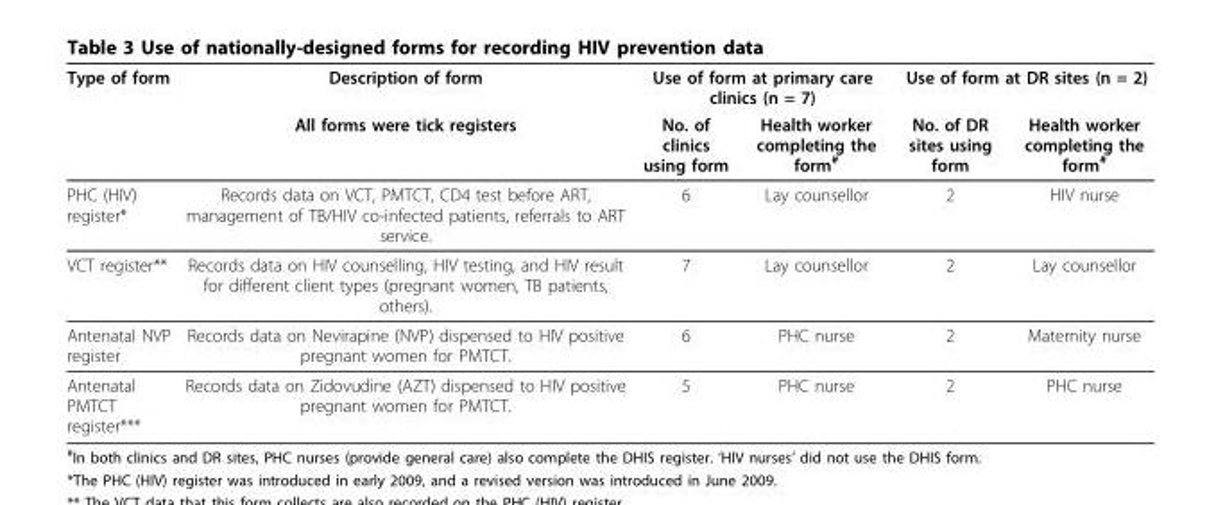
<table><thead><tr><td rowspan="2">Type of form</td><td rowspan="2">Description of form All forms were tick registers</td><td colspan="2">Use of form at primary care clinics (n = 7)</td><td colspan="2">Use of form at DR sites (n = 2)</td></tr><tr><td>No. of clinics using form</td><td>Health worker completing the form<sup>#</sup></td><td>No. of DR sites using form</td><td>Health worker completing the form<sup>#</sup></td></tr></thead><tbody><tr><td>PHC (HIV) register*</td><td>Records data on VCT, PMTCT, CD4 test before ART, management of TB/HIV co-infected patients, referrals to ART service.</td><td>6</td><td>Lay counsellor</td><td>2</td><td>HIV nurse</td></tr><tr><td>VCT register**</td><td>Records data on HIV counselling, HIV testing, and HIV result for different client types (pregnant women, TB patients, others).</td><td>7</td><td>Lay counsellor</td><td>2</td><td>Lay counsellor</td></tr><tr><td>Antenatal NVP register</td><td>Records data on Nevirapine (NVP) dispensed to HIV positive pregnant women for PMTCT.</td><td>6</td><td>PHC nurse</td><td>2</td><td>Maternity nurse</td></tr><tr><td>Antenatal PMTCT register***</td><td>Records data on Zidovudine (AZT) dispensed to HIV positive pregnant women for PMTCT.</td><td>5</td><td>PHC nurse</td><td>2</td><td>PHC nurse</td></tr></tbody></table>